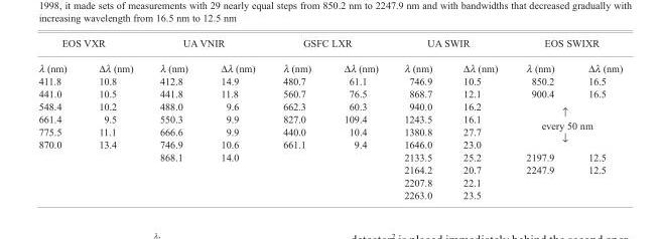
<table><thead><tr><td colspan="2">EOS VXR</td><td colspan="2">UA VNIR</td><td colspan="2">GSFC LXR</td><td colspan="2">UA SWIR</td><td colspan="2">EOS SWIXR</td></tr><tr><td>λ (nm)</td><td>∆λ (nm)</td><td>λ (nm)</td><td>∆λ (nm)</td><td>λ (nm)</td><td>∆λ (nm)</td><td>λ (nm)</td><td>∆λ (nm)</td><td>λ (nm)</td><td>∆λ (nm)</td></tr></thead><tbody><tr><td>411.8</td><td>10.8</td><td>412.8</td><td>14.9</td><td>480.7</td><td>61.1</td><td>746.9</td><td>10.5</td><td>850.2</td><td>16.5</td></tr><tr><td>441.0</td><td>10.5</td><td>441.8</td><td>11.8</td><td>560.7</td><td>76.5</td><td>868.7</td><td>12.1</td><td>900.4</td><td>16.5</td></tr><tr><td>548.4</td><td>10.2</td><td>488.0</td><td>9.6</td><td>662.3</td><td>60.3</td><td>940.0</td><td>16.2</td><td rowspan="4" colspan="2">↑ every 50 nm ↓</td></tr><tr><td>661.4</td><td>9.5</td><td>550.3</td><td>9.9</td><td>827.0</td><td>109.4</td><td>1243.5</td><td>16.1</td></tr><tr><td>775.5</td><td>11.1</td><td>666.6</td><td>9.9</td><td>440.0</td><td>10.4</td><td>1380.8</td><td>27.7</td></tr><tr><td rowspan="5">870.0</td><td>13.4</td><td>746.9</td><td>10.6</td><td>661.1</td><td>9.4</td><td>1646.0</td><td>23.0</td></tr><tr><td></td><td>868.1</td><td>14.0</td><td></td><td></td><td>2133.5</td><td>25.2</td><td>2197.9</td><td>12.5</td></tr><tr><td></td><td></td><td></td><td></td><td></td><td>2164.2</td><td>20.7</td><td>2247.9</td><td>12.5</td></tr><tr><td></td><td></td><td></td><td></td><td></td><td>2207.8</td><td>22.1</td><td></td><td></td></tr><tr><td></td><td></td><td></td><td></td><td></td><td>2263.0</td><td>23.5</td><td></td><td></td></tr></tbody></table>